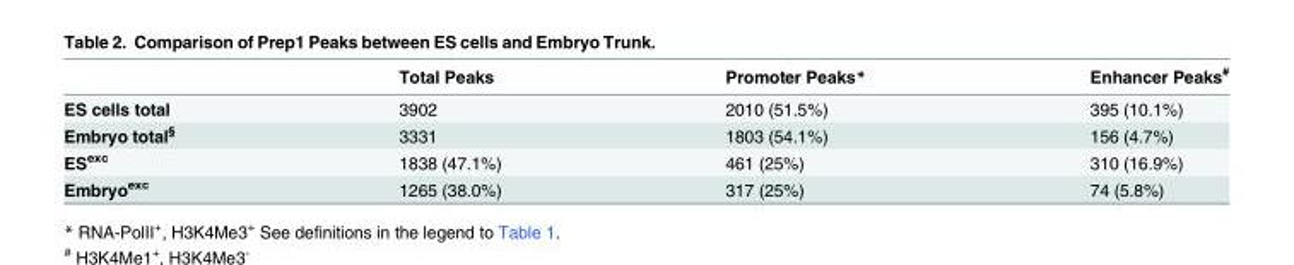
<table><thead><tr><td></td><td>Total Peaks</td><td>Promoter Peaks*</td><td>Enhancer Peaks<sup>#</sup></td></tr></thead><tbody><tr><td>ES cells total</td><td>3902</td><td>2010 (51.5%)</td><td>395 (10.1%)</td></tr><tr><td>Embryo total<sup>§</sup></td><td>3331</td><td>1803 (54.1%)</td><td>156 (4.7%)</td></tr><tr><td>ES<sup>exc</sup></td><td>1838 (47.1%)</td><td>461 (25%)</td><td>310 (16.9%)</td></tr><tr><td>Embryo<sup>exc</sup></td><td>1265 (38.0%)</td><td>317 (25%)</td><td>74 (5.8%)</td></tr></tbody></table>